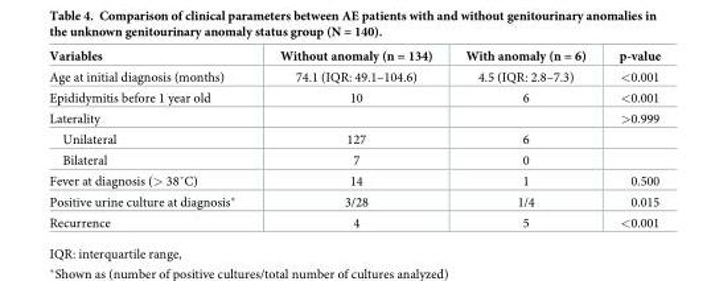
<table><thead><tr><td>Variables</td><td>Without anomaly (n = 134)</td><td>With anomaly (n = 6)</td><td>p-value</td></tr></thead><tbody><tr><td>Age at initial diagnosis (months)</td><td>74.1 (IQR: 49.1–104.6)</td><td>4.5 (IQR: 2.8–7.3)</td><td>&lt;0.001</td></tr><tr><td>Epididymitis before 1 year old</td><td>10</td><td>6</td><td>&lt;0.001</td></tr><tr><td>Laterality</td><td></td><td></td><td>&gt;0.999</td></tr><tr><td>Unilateral</td><td>127</td><td>6</td><td></td></tr><tr><td>Bilateral</td><td>7</td><td>0</td><td></td></tr><tr><td>Fever at diagnosis (&gt; 38˚C)</td><td>14</td><td>1</td><td>0.500</td></tr><tr><td>Positive urine culture at diagnosis*</td><td>3/28</td><td>1/4</td><td>0.015</td></tr><tr><td>Recurrence</td><td>4</td><td>5</td><td>&lt;0.001</td></tr></tbody></table>